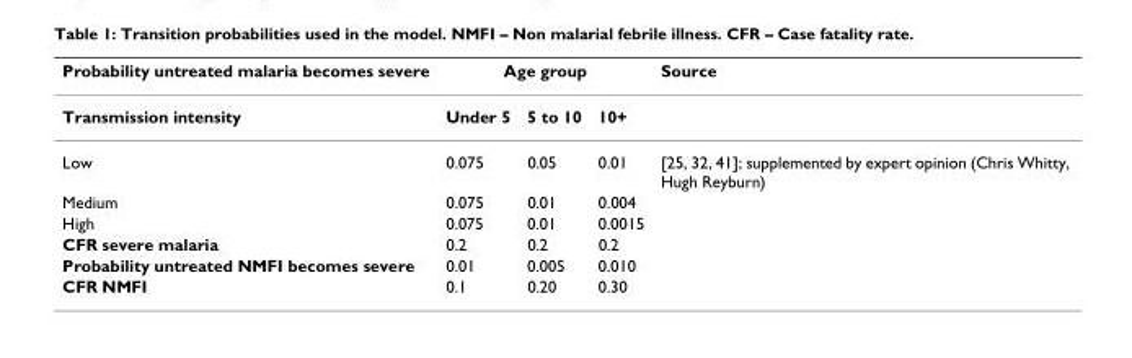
<table><thead><tr><td rowspan="2">Probability untreated malaria becomes severe Transmission intensity</td><td colspan="3">Age group</td><td rowspan="2">Source</td></tr><tr><td>Under 5</td><td>5 to 10</td><td>10+</td></tr></thead><tbody><tr><td>Low</td><td>0.075</td><td>0.05</td><td>0.01</td><td>[25, 32, 41]; supplemented by expert opinion (Chris Whitty, Hugh Reyburn)</td></tr><tr><td>Medium</td><td>0.075</td><td>0.01</td><td>0.004</td><td></td></tr><tr><td>High</td><td>0.075</td><td>0.01</td><td>0.0015</td><td></td></tr><tr><td>CFR severe malaria</td><td>0.2</td><td>0.2</td><td>0.2</td><td></td></tr><tr><td>Probability untreated NMFI becomes severe</td><td>0.01</td><td>0.005</td><td>0.010</td><td></td></tr><tr><td>CFR NMFI</td><td>0.1</td><td>0.20</td><td>0.30</td><td></td></tr></tbody></table>